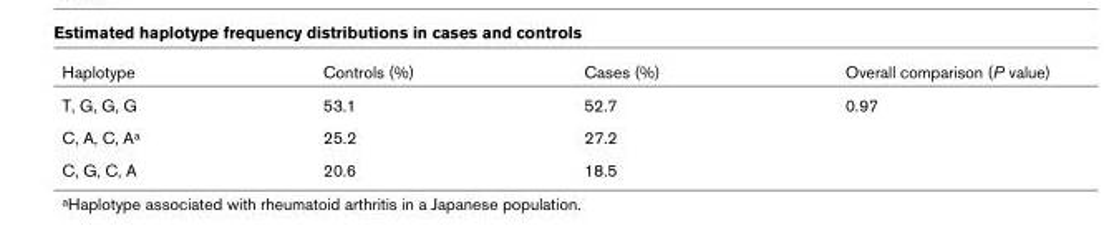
<table><thead><tr><td>Haplotype</td><td>Controls (%)</td><td>Cases (%)</td><td>Overall comparison (P value)</td></tr></thead><tbody><tr><td>T, G, G, G</td><td>53.1</td><td>52.7</td><td>0.97</td></tr><tr><td>C, A, C, Aa</td><td>25.2</td><td>27.2</td><td></td></tr><tr><td>C, G, C, A</td><td>20.6</td><td>18.5</td><td></td></tr></tbody></table>